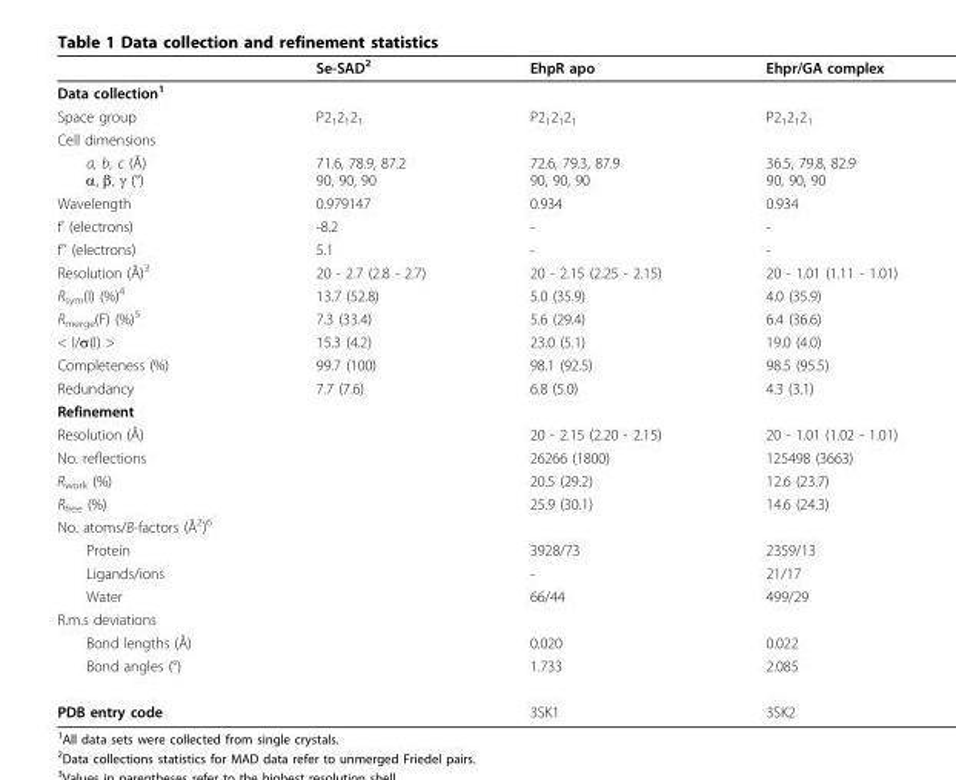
<table><thead><tr><td></td><td>Se-SAD<sup>2</sup></td><td>EhpR apo</td><td>Ehpr/GA complex</td></tr></thead><tbody><tr><td colspan="4">Data collection<sup>1</sup></td></tr><tr><td>Space group</td><td>P2<sub>1</sub>2<sub>1</sub>2<sub>1</sub></td><td>P2<sub>1</sub>2<sub>1</sub>2<sub>1</sub></td><td>P2<sub>1</sub>2<sub>1</sub>2<sub>1</sub></td></tr><tr><td colspan="4">Cell dimensions</td></tr><tr><td>a, b, c (Å) α, β, γ (°)</td><td>71.6, 78.9, 87.2 90, 90, 90</td><td>72.6, 79.3, 87.9 90, 90, 90</td><td>36.5, 79.8, 82.9 90, 90, 90</td></tr><tr><td>Wavelength</td><td>0.979147</td><td>0.934</td><td>0.934</td></tr><tr><td>f’ (electrons)</td><td>-8.2</td><td>-</td><td>-</td></tr><tr><td>f’’ (electrons)</td><td>5.1</td><td>-</td><td>-</td></tr><tr><td>Resolution (Å)<sup>3</sup></td><td>20 - 2.7 (2.8 - 2.7)</td><td>20 - 2.15 (2.25 - 2.15)</td><td>20 - 1.01 (1.11 - 1.01)</td></tr><tr><td>R<sub>sym</sub>(I) (%)<sup>4</sup></td><td>13.7 (52.8)</td><td>5.0 (35.9)</td><td>4.0 (35.9)</td></tr><tr><td>R<sub>merge</sub>(F) (%)<sup>5</sup></td><td>7.3 (33.4)</td><td>5.6 (29.4)</td><td>6.4 (36.6)</td></tr><tr><td>&lt; I/σ(I) &gt;</td><td>15.3 (4.2)</td><td>23.0 (5.1)</td><td>19.0 (4.0)</td></tr><tr><td>Completeness (%)</td><td>99.7 (100)</td><td>98.1 (92.5)</td><td>98.5 (95.5)</td></tr><tr><td>Redundancy</td><td>7.7 (7.6)</td><td>6.8 (5.0)</td><td>4.3 (3.1)</td></tr><tr><td colspan="4">Refinement</td></tr><tr><td>Resolution (Å)</td><td></td><td>20 - 2.15 (2.20 - 2.15)</td><td>20 - 1.01 (1.02 - 1.01)</td></tr><tr><td>No. reflections</td><td></td><td>26266 (1800)</td><td>125498 (3663)</td></tr><tr><td>R<sub>work</sub> (%)</td><td></td><td>20.5 (29.2)</td><td>12.6 (23.7)</td></tr><tr><td>R<sub>free</sub> (%)</td><td></td><td>25.9 (30.1)</td><td>14.6 (24.3)</td></tr><tr><td colspan="4">No. atoms/B-factors (Å<sup>2</sup>)<sup>6</sup></td></tr><tr><td>Protein</td><td></td><td>3928/73</td><td>2359/13</td></tr><tr><td>Ligands/ions</td><td></td><td>-</td><td>21/17</td></tr><tr><td>Water</td><td></td><td>66/44</td><td>499/29</td></tr><tr><td colspan="4">R.m.s deviations</td></tr><tr><td>Bond lengths (Å)</td><td></td><td>0.020</td><td>0.022</td></tr><tr><td>Bond angles (°)</td><td></td><td>1.733</td><td>2.085</td></tr><tr><td>PDB entry code</td><td></td><td>3SK1</td><td>3SK2</td></tr></tbody></table>